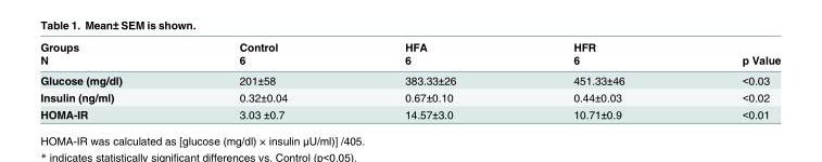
<table><thead><tr><td rowspan="2">Groups N</td><td rowspan="2">Control 6</td><td rowspan="2">HFA 6</td><td rowspan="2">HFR 6</td><td rowspan="2">p Value</td></tr><tr></tr></thead><tbody><tr><td>Glucose (mg/dl)</td><td>201±58</td><td>383.33±26</td><td>451.33±46</td><td>&lt;0.03</td></tr><tr><td>Insulin (ng/ml)</td><td>0.32±0.04</td><td>0.67±0.10</td><td>0.44±0.03</td><td>&lt;0.02</td></tr><tr><td>HOMA-IR</td><td>3.03 ±0.7</td><td>14.57±3.0</td><td>10.71±0.9</td><td>&lt;0.01</td></tr></tbody></table>